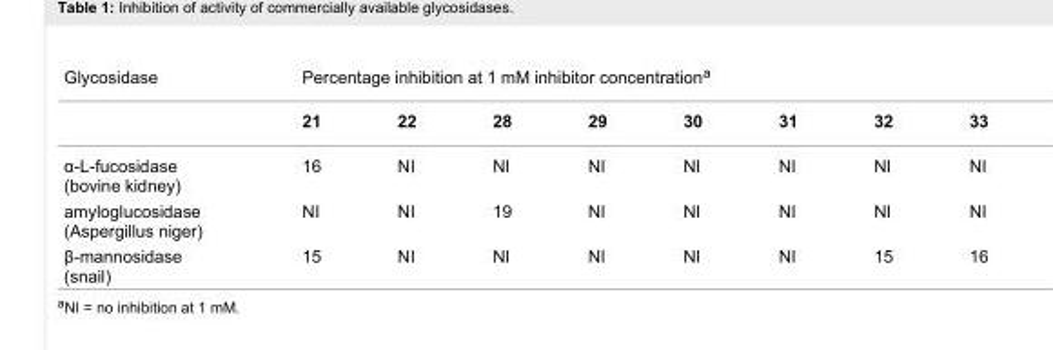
<table><tbody><tr><td rowspan="2">Glycosidase</td><td colspan="8">Percentage inhibition at 1 mM inhibitor concentration<sup>a</sup></td></tr><tr><td>21</td><td>22</td><td>28</td><td>29</td><td>30</td><td>31</td><td>32</td><td>33</td></tr><tr><td>α-L-fucosidase (bovine kidney)</td><td>16</td><td>NI</td><td>NI</td><td>NI</td><td>NI</td><td>NI</td><td>NI</td><td>NI</td></tr><tr><td>amyloglucosidase (Aspergillus niger)</td><td>NI</td><td>NI</td><td>19</td><td>NI</td><td>NI</td><td>NI</td><td>NI</td><td>NI</td></tr><tr><td>β-mannosidase (snail)</td><td>15</td><td>NI</td><td>NI</td><td>NI</td><td>NI</td><td>NI</td><td>15</td><td>16</td></tr></tbody></table>